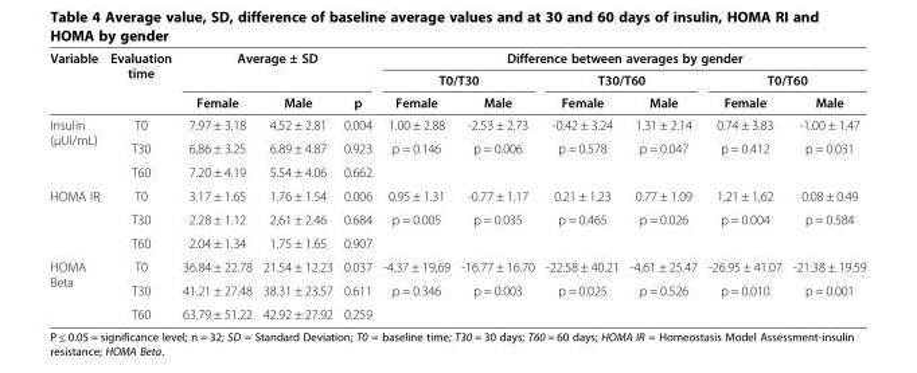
<table><thead><tr><td rowspan="3">Variable</td><td rowspan="3">Evaluation time</td><td rowspan="2" colspan="3">Average ± SD</td><td colspan="6">Difference between averages by gender</td></tr><tr><td colspan="2">T0/T30</td><td colspan="2">T30/T60</td><td colspan="2">T0/T60</td></tr><tr><td>Female</td><td>Male</td><td>p</td><td>Female</td><td>Male</td><td>Female</td><td>Male</td><td>Female</td><td>Male</td></tr></thead><tbody><tr><td rowspan="3">Insulin (μUI/mL)</td><td>T0</td><td>7.97 ± 3.18</td><td>4.52 ± 2.81</td><td>0.004</td><td>1.00 ± 2.88</td><td>-2.53 ± 2.73</td><td>-0.42 ± 3.24</td><td>1.31 ± 2.14</td><td>0.74 ± 3.83</td><td>-1.00 ± 1.47</td></tr><tr><td>T30</td><td>6,86 ± 3.25</td><td>6.89 ± 4.87</td><td>0.923</td><td rowspan="2">p = 0.146</td><td rowspan="2">p = 0.006</td><td rowspan="2">p = 0.578</td><td rowspan="2">p = 0.047</td><td rowspan="2">p = 0.412</td><td rowspan="2">p = 0.031</td></tr><tr><td>T60</td><td>7.20 ± 4.19</td><td>5.54 ± 4.06</td><td>0.662</td></tr><tr><td rowspan="3">HOMA IR</td><td>T0</td><td>3.17 ± 1.65</td><td>1.76 ± 1.54</td><td>0.006</td><td>0.95 ± 1.31</td><td>-0.77 ± 1.17</td><td>0.21 ± 1.23</td><td>0.77 ± 1.09</td><td>1,21 ± 1,62</td><td>0.08 ± 0.49</td></tr><tr><td>T30</td><td>2.28 ± 1.12</td><td>2,61 ± 2.46</td><td>0.684</td><td rowspan="2">p = 0.005</td><td rowspan="2">p = 0.035</td><td rowspan="2">p = 0.465</td><td rowspan="2">p = 0.026</td><td rowspan="2">p = 0.004</td><td rowspan="2">p = 0.584</td></tr><tr><td>T60</td><td>2.04 ± 1.34</td><td>1.75 ± 1.65</td><td>0.907</td></tr><tr><td rowspan="3">HOMA Beta</td><td>T0</td><td>36.84 ± 22.78</td><td>21.54 ± 12.23</td><td>0.037</td><td>-4.37 ± 19,69</td><td>-16.77 ± 16.70</td><td>-22.58 ± 40.21</td><td>-4.61 ± 25.47</td><td>-26.95 ± 41.07</td><td>-21.38 ± 19.59</td></tr><tr><td>T30</td><td>41.21 ± 27.48</td><td>38.31 ± 23.57</td><td>0.611</td><td>p = 0.346</td><td>p = 0.003</td><td>p = 0.025</td><td>p = 0.526</td><td>p = 0.010</td><td>p = 0.001</td></tr><tr><td>T60</td><td>63.79 ± 51.22</td><td>42.92 ± 27.92</td><td>0.259</td><td></td><td></td><td></td><td></td><td></td><td></td></tr></tbody></table>